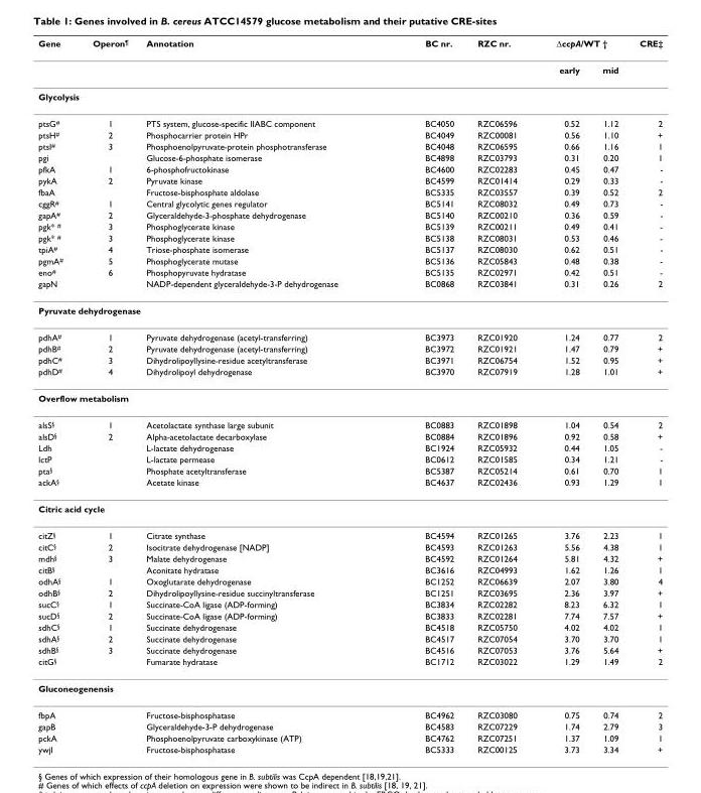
<table><thead><tr><td rowspan="2">Gene</td><td rowspan="2">Operon<sup>¶</sup></td><td rowspan="2">Annotation</td><td rowspan="2">BC nr.</td><td rowspan="2">RZC nr.</td><td colspan="2">ΔccpA/WT †</td><td rowspan="2">CRE‡</td></tr><tr><td>early</td><td>mid</td></tr></thead><tbody><tr><td colspan="8">Glycolysis</td></tr><tr><td>ptsG<sup>#</sup></td><td>1</td><td>PTS system, glucose-specific IIABC component</td><td>BC4050</td><td>RZC06596</td><td>0.52</td><td>1.12</td><td>2</td></tr><tr><td>ptsH<sup>#</sup></td><td>2</td><td>Phosphocarrier protein HPr</td><td>BC4049</td><td>RZC00081</td><td>0.56</td><td>1.10</td><td>+</td></tr><tr><td>ptsI<sup>#</sup></td><td>3</td><td>Phosphoenolpyruvate-protein phosphotransferase</td><td>BC4048</td><td>RZC06595</td><td>0.66</td><td>1.16</td><td>1</td></tr><tr><td>pgi</td><td></td><td>Glucose-6-phosphate isomerase</td><td>BC4898</td><td>RZC03793</td><td>0.31</td><td>0.20</td><td>1</td></tr><tr><td>pfkA</td><td>1</td><td>6-phosphofructokinase</td><td>BC4600</td><td>RZC02283</td><td>0.45</td><td>0.47</td><td>-</td></tr><tr><td>pykA</td><td>2</td><td>Pyruvate kinase</td><td>BC4599</td><td>RZC01414</td><td>0.29</td><td>0.33</td><td>-</td></tr><tr><td>fbaA</td><td></td><td>Fructose-bisphosphate aldolase</td><td>BC5335</td><td>RZC03557</td><td>0.39</td><td>0.52</td><td>2</td></tr><tr><td>cggR<sup>#</sup></td><td>1</td><td>Central glycolytic genes regulator</td><td>BC5141</td><td>RZC08032</td><td>0.49</td><td>0.73</td><td>-</td></tr><tr><td>gapA<sup>#</sup></td><td>2</td><td>Glyceraldehyde-3-phosphate dehydrogenase</td><td>BC5140</td><td>RZC00210</td><td>0.36</td><td>0.59</td><td>-</td></tr><tr><td>pgk* <sup>#</sup></td><td>3</td><td>Phosphoglycerate kinase</td><td>BC5139</td><td>RZC00211</td><td>0.49</td><td>0.41</td><td>-</td></tr><tr><td>pgk* <sup>#</sup></td><td>3</td><td>Phosphoglycerate kinase</td><td>BC5138</td><td>RZC08031</td><td>0.53</td><td>0.46</td><td>-</td></tr><tr><td>tpiA<sup>#</sup></td><td>4</td><td>Triose-phosphate isomerase</td><td>BC5137</td><td>RZC08030</td><td>0.62</td><td>0.51</td><td>-</td></tr><tr><td>pgmA<sup>#</sup></td><td>5</td><td>Phosphoglycerate mutase</td><td>BC5136</td><td>RZC05843</td><td>0.48</td><td>0.38</td><td>-</td></tr><tr><td>eno<sup>#</sup></td><td>6</td><td>Phosphopyruvate hydratase</td><td>BC5135</td><td>RZC02971</td><td>0.42</td><td>0.51</td><td>-</td></tr><tr><td>gapN</td><td></td><td>NADP-dependent glyceraldehyde-3-P dehydrogenase</td><td>BC0868</td><td>RZC03841</td><td>0.31</td><td>0.26</td><td>2</td></tr><tr><td colspan="8">Pyruvate dehydrogenase</td></tr><tr><td>pdhA<sup>#</sup></td><td>1</td><td>Pyruvate dehydrogenase (acetyl-transferring)</td><td>BC3973</td><td>RZC01920</td><td>1.24</td><td>0.77</td><td>2</td></tr><tr><td>pdhB<sup>#</sup></td><td>2</td><td>Pyruvate dehydrogenase (acetyl-transferring)</td><td>BC3972</td><td>RZC01921</td><td>1.47</td><td>0.79</td><td>+</td></tr><tr><td>pdhC<sup>#</sup></td><td>3</td><td>Dihydrolipoyllysine-residue acetyltransferase</td><td>BC3971</td><td>RZC06754</td><td>1.52</td><td>0.95</td><td>+</td></tr><tr><td>pdhD<sup>#</sup></td><td>4</td><td>Dihydrolipoyl dehydrogenase</td><td>BC3970</td><td>RZC07919</td><td>1.28</td><td>1.01</td><td>+</td></tr><tr><td colspan="8">Overflow metabolism</td></tr><tr><td>alsS<sup>§</sup></td><td>1</td><td>Acetolactate synthase large subunit</td><td>BC0883</td><td>RZC01898</td><td>1.04</td><td>0.54</td><td>2</td></tr><tr><td>alsD<sup>§</sup></td><td>2</td><td>Alpha-acetolactate decarboxylase</td><td>BC0884</td><td>RZC01896</td><td>0.92</td><td>0.58</td><td>+</td></tr><tr><td>Ldh</td><td></td><td>L-lactate dehydrogenase</td><td>BC1924</td><td>RZC05932</td><td>0.44</td><td>1.05</td><td>-</td></tr><tr><td>lctP</td><td></td><td>L-lactate permease</td><td>BC0612</td><td>RZC01585</td><td>0.34</td><td>1.21</td><td>-</td></tr><tr><td>pta<sup>§</sup></td><td></td><td>Phosphate acetyltransferase</td><td>BC5387</td><td>RZC05214</td><td>0.61</td><td>0.70</td><td>1</td></tr><tr><td>ackA<sup>§</sup></td><td></td><td>Acetate kinase</td><td>BC4637</td><td>RZC02436</td><td>0.93</td><td>1.29</td><td>1</td></tr><tr><td colspan="8">Citric acid cycle</td></tr><tr><td>citZ<sup>§</sup></td><td>1</td><td>Citrate synthase</td><td>BC4594</td><td>RZC01265</td><td>3.76</td><td>2.23</td><td>1</td></tr><tr><td>citC<sup>§</sup></td><td>2</td><td>Isocitrate dehydrogenase [NADP]</td><td>BC4593</td><td>RZC01263</td><td>5.56</td><td>4.38</td><td>1</td></tr><tr><td>mdh<sup>§</sup></td><td>3</td><td>Malate dehydrogenase</td><td>BC4592</td><td>RZC01264</td><td>5.81</td><td>4.32</td><td>+</td></tr><tr><td>citB<sup>§</sup></td><td></td><td>Aconitate hydratase</td><td>BC3616</td><td>RZC04993</td><td>1.62</td><td>1.26</td><td>1</td></tr><tr><td>odhA<sup>§</sup></td><td>1</td><td>Oxoglutarate dehydrogenase</td><td>BC1252</td><td>RZC06639</td><td>2.07</td><td>3.80</td><td>4</td></tr><tr><td>odhB<sup>§</sup></td><td>2</td><td>Dihydrolipoyllysine-residue succinyltransferase</td><td>BC1251</td><td>RZC03695</td><td>2.36</td><td>3.97</td><td>+</td></tr><tr><td>sucC<sup>§</sup></td><td>1</td><td>Succinate-CoA ligase (ADP-forming)</td><td>BC3834</td><td>RZC02282</td><td>8.23</td><td>6.32</td><td>1</td></tr><tr><td>sucD<sup>§</sup></td><td>2</td><td>Succinate-CoA ligase (ADP-forming)</td><td>BC3833</td><td>RZC02281</td><td>7.74</td><td>7.57</td><td>+</td></tr><tr><td>sdhC<sup>§</sup></td><td>1</td><td>Succinate dehydrogenase</td><td>BC4518</td><td>RZC05750</td><td>4.02</td><td>4.02</td><td>1</td></tr><tr><td>sdhA<sup>§</sup></td><td>2</td><td>Succinate dehydrogenase</td><td>BC4517</td><td>RZC07054</td><td>3.70</td><td>3.70</td><td>1</td></tr><tr><td>sdhB<sup>§</sup></td><td>3</td><td>Succinate dehydrogenase</td><td>BC4516</td><td>RZC07053</td><td>3.76</td><td>5.64</td><td>+</td></tr><tr><td>citG<sup>§</sup></td><td></td><td>Fumarate hydratase</td><td>BC1712</td><td>RZC03022</td><td>1.29</td><td>1.49</td><td>2</td></tr><tr><td colspan="8">Gluconeogenensis</td></tr><tr><td>fbpA</td><td></td><td>Fructose-bisphosphatase</td><td>BC4962</td><td>RZC03080</td><td>0.75</td><td>0.74</td><td>2</td></tr><tr><td>gapB</td><td></td><td>Glyceraldehyde-3-P dehydrogenase</td><td>BC4583</td><td>RZC07229</td><td>1.74</td><td>2.79</td><td>3</td></tr><tr><td>pckA</td><td></td><td>Phosphoenolpyruvate carboxykinase (ATP)</td><td>BC4762</td><td>RZC07251</td><td>1.37</td><td>1.09</td><td>1</td></tr><tr><td>ywjI</td><td></td><td>Fructose-bisphosphatase</td><td>BC5333</td><td>RZC00125</td><td>3.73</td><td>3.34</td><td>+</td></tr></tbody></table>